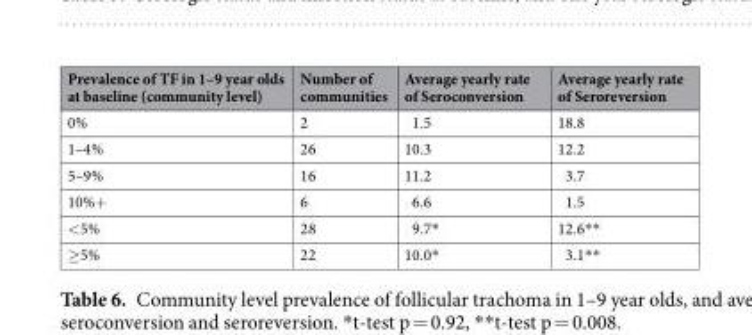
<table><thead><tr><td>Prevalence of TF in 1–9 year olds at baseline (community level)</td><td>Number of communities</td><td>Average yearly rate of Seroconversion</td><td>Average yearly rate of Seroreversion</td></tr></thead><tbody><tr><td>0%</td><td>2</td><td>1.5</td><td>18.8</td></tr><tr><td>1–4%</td><td>26</td><td>10.3</td><td>12.2</td></tr><tr><td>5–9%</td><td>16</td><td>11.2</td><td>3.7</td></tr><tr><td>10%+</td><td>6</td><td>6.6</td><td>1.5</td></tr><tr><td>&lt;5%</td><td>28</td><td>9.7*</td><td>12.6**</td></tr><tr><td>≥5%</td><td>22</td><td>10.0*</td><td>3.1**</td></tr></tbody></table>